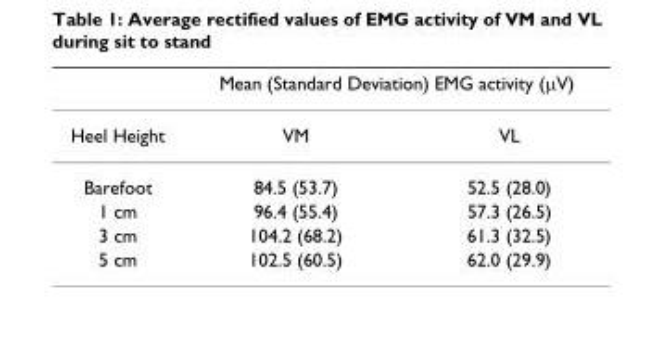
<table><thead><tr><td rowspan="2">Heel Height</td><td colspan="2">Mean (Standard Deviation) EMG activity (µV)</td></tr><tr><td>VM</td><td>VL</td></tr></thead><tbody><tr><td>Barefoot</td><td>84.5 (53.7)</td><td>52.5 (28.0)</td></tr><tr><td>1 cm</td><td>96.4 (55.4)</td><td>57.3 (26.5)</td></tr><tr><td>3 cm</td><td>104.2 (68.2)</td><td>61.3 (32.5)</td></tr><tr><td>5 cm</td><td>102.5 (60.5)</td><td>62.0 (29.9)</td></tr></tbody></table>